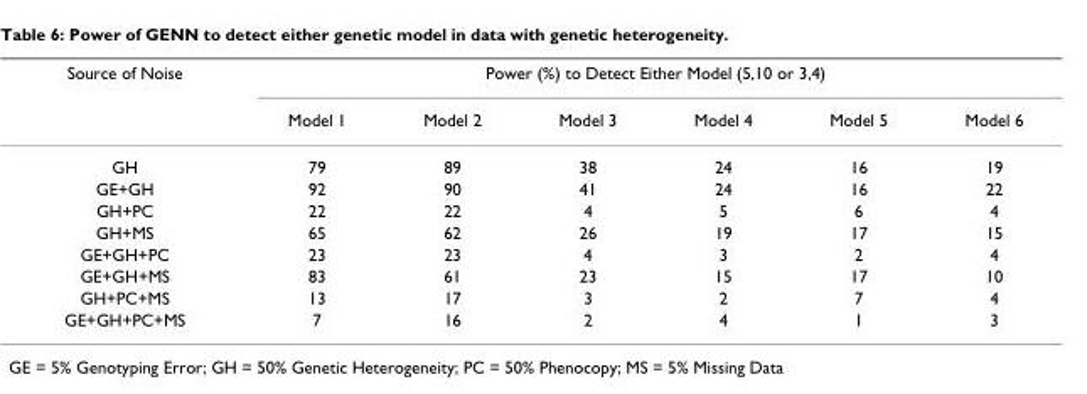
<table><thead><tr><td rowspan="2">Source of Noise</td><td colspan="6">Power (%) to Detect Either Model (5,10 or 3,4)</td></tr><tr><td>Model 1</td><td>Model 2</td><td>Model 3</td><td>Model 4</td><td>Model 5</td><td>Model 6</td></tr></thead><tbody><tr><td>GH</td><td>79</td><td>89</td><td>38</td><td>24</td><td>16</td><td>19</td></tr><tr><td>GE+GH</td><td>92</td><td>90</td><td>41</td><td>24</td><td>16</td><td>22</td></tr><tr><td>GH+PC</td><td>22</td><td>22</td><td>4</td><td>5</td><td>6</td><td>4</td></tr><tr><td>GH+MS</td><td>65</td><td>62</td><td>26</td><td>19</td><td>17</td><td>15</td></tr><tr><td>GE+GH+PC</td><td>23</td><td>23</td><td>4</td><td>3</td><td>2</td><td>4</td></tr><tr><td>GE+GH+MS</td><td>83</td><td>61</td><td>23</td><td>15</td><td>17</td><td>10</td></tr><tr><td>GH+PC+MS</td><td>13</td><td>17</td><td>3</td><td>2</td><td>7</td><td>4</td></tr><tr><td>GE+GH+PC+MS</td><td>7</td><td>16</td><td>2</td><td>4</td><td>1</td><td>3</td></tr></tbody></table>